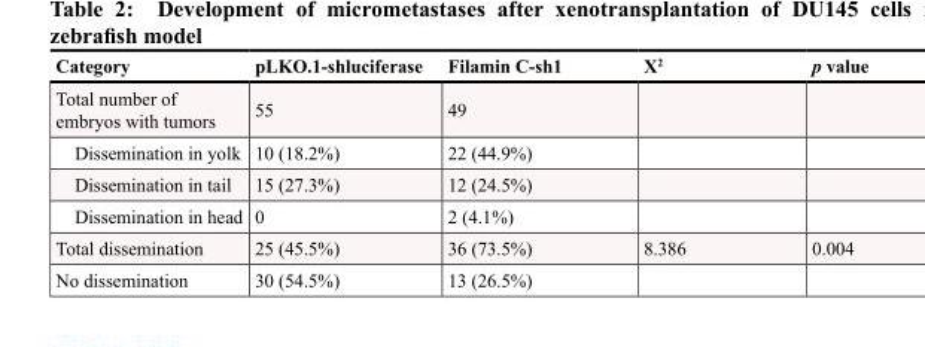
<table><thead><tr><td>Category</td><td>pLKO.1-shluciferase</td><td>Filamin C-sh1</td><td>X<sup>2</sup></td><td>p value</td></tr></thead><tbody><tr><td>Total number of embryos with tumors</td><td>55</td><td>49</td><td></td><td></td></tr><tr><td>Dissemination in yolk</td><td>10 (18.2%)</td><td>22 (44.9%)</td><td></td><td></td></tr><tr><td>Dissemination in tail</td><td>15 (27.3%)</td><td>12 (24.5%)</td><td></td><td></td></tr><tr><td>Dissemination in head</td><td>0</td><td>2 (4.1%)</td><td></td><td></td></tr><tr><td>Total dissemination</td><td>25 (45.5%)</td><td>36 (73.5%)</td><td>8.386</td><td>0.004</td></tr><tr><td>No dissemination</td><td>30 (54.5%)</td><td>13 (26.5%)</td><td></td><td></td></tr></tbody></table>